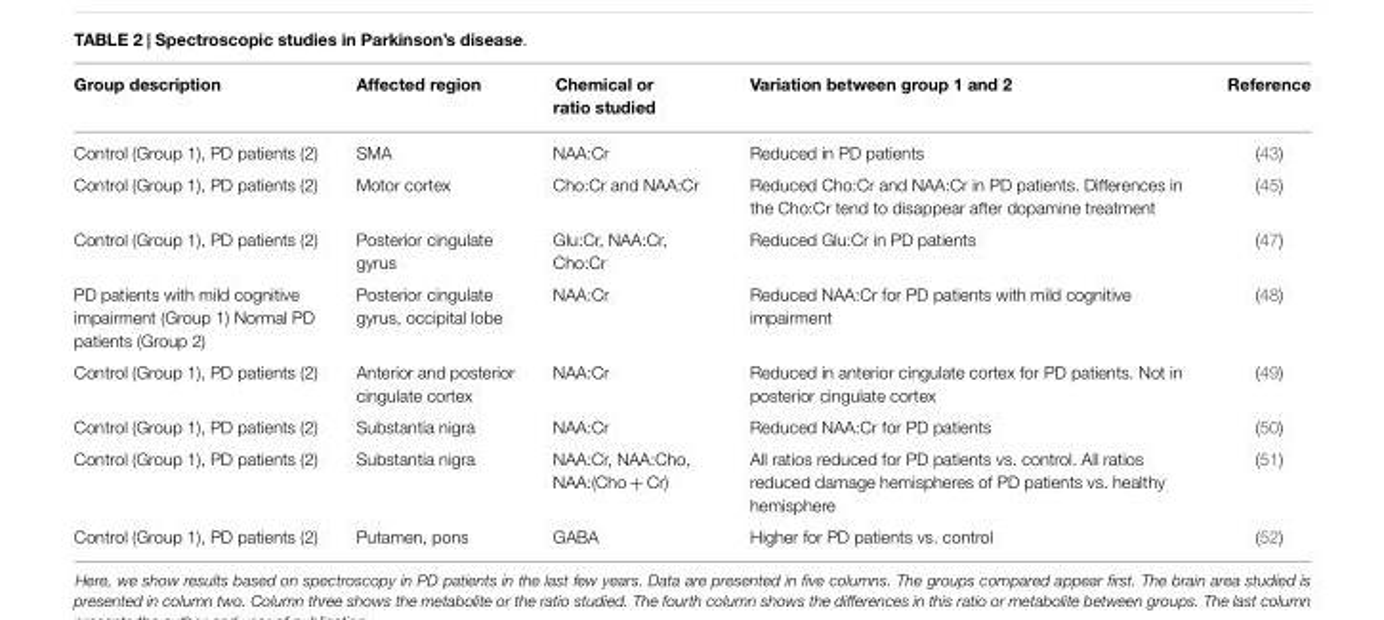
<table><thead><tr><td>Group description</td><td>Affected region</td><td>Chemical or ratio studied</td><td>Variation between group 1 and 2</td><td>Reference</td></tr></thead><tbody><tr><td>Control (Group 1), PD patients (2)</td><td>SMA</td><td>NAA:Cr</td><td>Reduced in PD patients</td><td>(43)</td></tr><tr><td>Control (Group 1), PD patients (2)</td><td>Motor cortex</td><td>Cho:Cr and NAA:Cr</td><td>Reduced Cho:Cr and NAA:Cr in PD patients. Differences in the Cho:Cr tend to disappear after dopamine treatment</td><td>(45)</td></tr><tr><td>Control (Group 1), PD patients (2)</td><td>Posterior cingulate gyrus</td><td>Glu:Cr, NAA:Cr, Cho:Cr</td><td>Reduced Glu:Cr in PD patients</td><td>(47)</td></tr><tr><td>PD patients with mild cognitive impairment (Group 1) Normal PD patients (Group 2)</td><td>Posterior cingulate gyrus, occipital lobe</td><td>NAA:Cr</td><td>Reduced NAA:Cr for PD patients with mild cognitive impairment</td><td>(48)</td></tr><tr><td>Control (Group 1), PD patients (2)</td><td>Anterior and posterior cingulate cortex</td><td>NAA:Cr</td><td>Reduced in anterior cingulate cortex for PD patients. Not in posterior cingulate cortex</td><td>(49)</td></tr><tr><td>Control (Group 1), PD patients (2)</td><td>Substantia nigra</td><td>NAA:Cr</td><td>Reduced NAA:Cr for PD patients</td><td>(50)</td></tr><tr><td>Control (Group 1), PD patients (2)</td><td>Substantia nigra</td><td>NAA:Cr, NAA:Cho, NAA:(Cho + Cr)</td><td>All ratios reduced for PD patients vs. control. All ratios reduced damage hemispheres of PD patients vs. healthy hemisphere</td><td>(51)</td></tr><tr><td>Control (Group 1), PD patients (2)</td><td>Putamen, pons</td><td>GABA</td><td>Higher for PD patients vs. control</td><td>(52)</td></tr></tbody></table>